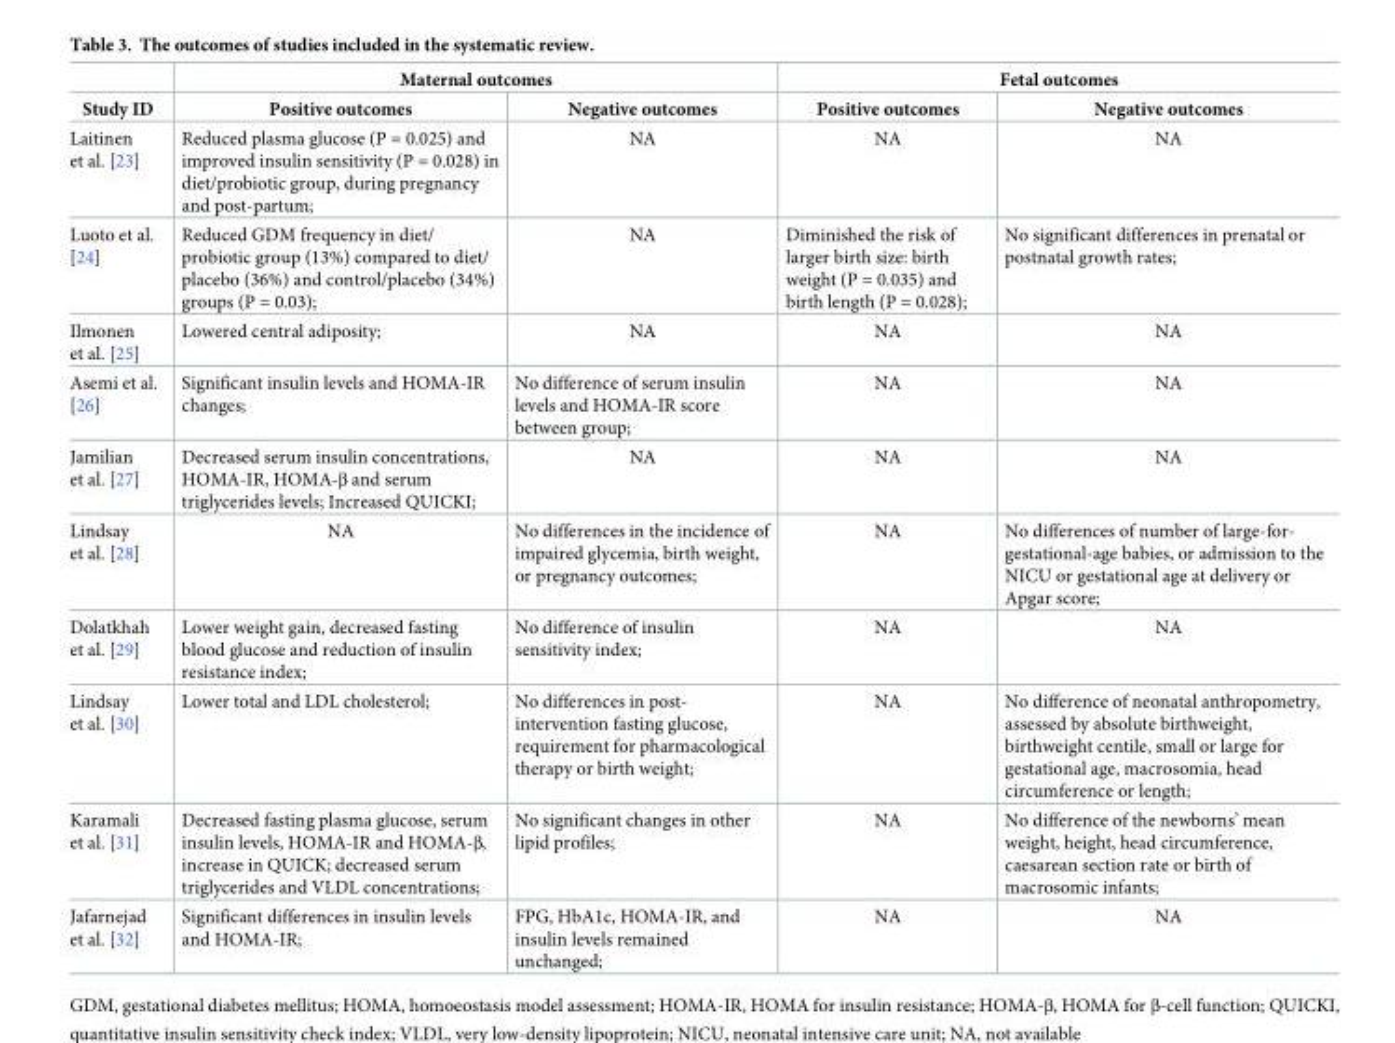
<table><thead><tr><td rowspan="2">Study ID</td><td colspan="2">Maternal outcomes</td><td colspan="2">Fetal outcomes</td></tr><tr><td>Positive outcomes</td><td>Negative outcomes</td><td>Positive outcomes</td><td>Negative outcomes</td></tr></thead><tbody><tr><td>Laitinen et al. [23]</td><td>Reduced plasma glucose (P = 0.025) and improved insulin sensitivity (P = 0.028) in diet/probiotic group, during pregnancy and post-partum;</td><td>NA</td><td>NA</td><td>NA</td></tr><tr><td>Luoto et al. [24]</td><td>Reduced GDM frequency in diet/ probiotic group (13%) compared to diet/ placebo (36%) and control/placebo (34%) groups (P = 0.03);</td><td>NA</td><td>Diminished the risk of larger birth size: birth weight (P = 0.035) and birth length (P = 0.028);</td><td>No significant differences in prenatal or postnatal growth rates;</td></tr><tr><td>Ilmonen et al. [25]</td><td>Lowered central adiposity;</td><td>NA</td><td>NA</td><td>NA</td></tr><tr><td>Asemi et al. [26]</td><td>Significant insulin levels and HOMA-IR changes;</td><td>No difference of serum insulin levels and HOMA-IR score between group;</td><td>NA</td><td>NA</td></tr><tr><td>Jamilian et al. [27]</td><td>Decreased serum insulin concentrations, HOMA-IR, HOMA-β and serum triglycerides levels; Increased QUICKI;</td><td>NA</td><td>NA</td><td>NA</td></tr><tr><td>Lindsay et al. [28]</td><td>NA</td><td>No differences in the incidence of impaired glycemia, birth weight, or pregnancy outcomes;</td><td>NA</td><td>No differences of number of large-for- gestational-age babies, or admission to the NICU or gestational age at delivery or Apgar score;</td></tr><tr><td>Dolatkhah et al. [29]</td><td>Lower weight gain, decreased fasting blood glucose and reduction of insulin resistance index;</td><td>No difference of insulin sensitivity index;</td><td>NA</td><td>NA</td></tr><tr><td>Lindsay et al. [30]</td><td>Lower total and LDL cholesterol;</td><td>No differences in post- intervention fasting glucose, requirement for pharmacological therapy or birth weight;</td><td>NA</td><td>No difference of neonatal anthropometry, assessed by absolute birthweight, birthweight centile, small or large for gestational age, macrosomia, head circumference or length;</td></tr><tr><td>Karamali et al. [31]</td><td>Decreased fasting plasma glucose, serum insulin levels, HOMA-IR and HOMA-β, increase in QUICK; decreased serum triglycerides and VLDL concentrations;</td><td>No significant changes in other lipid profiles;</td><td>NA</td><td>No difference of the newborns’ mean weight, height, head circumference, caesarean section rate or birth of macrosomic infants;</td></tr><tr><td>Jafarnejad et al. [32]</td><td>Significant differences in insulin levels and HOMA-IR;</td><td>FPG, HbA1c, HOMA-IR, and insulin levels remained unchanged;</td><td>NA</td><td>NA</td></tr></tbody></table>